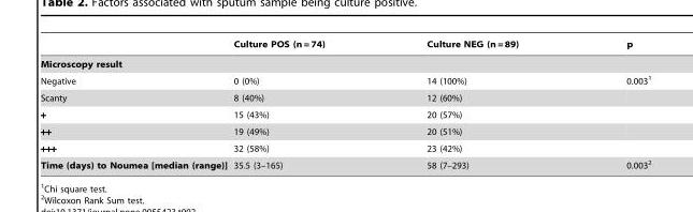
<table><thead><tr><td></td><td>Culture POS (n = 74)</td><td>Culture NEG (n = 89)</td><td>p</td></tr></thead><tbody><tr><td colspan="4">Microscopy result</td></tr><tr><td>Negative</td><td>0 (0%)</td><td>14 (100%)</td><td>0.003<sup>1</sup></td></tr><tr><td>Scanty</td><td>8 (40%)</td><td>12 (60%)</td><td></td></tr><tr><td>+</td><td>15 (43%)</td><td>20 (57%)</td><td></td></tr><tr><td>++</td><td>19 (49%)</td><td>20 (51%)</td><td></td></tr><tr><td>+++</td><td>32 (58%)</td><td>23 (42%)</td><td></td></tr><tr><td>Time (days) to Noumea [median (range)]</td><td>35.5 (3–165)</td><td>58 (7–293)</td><td>0.003<sup>2</sup></td></tr></tbody></table>